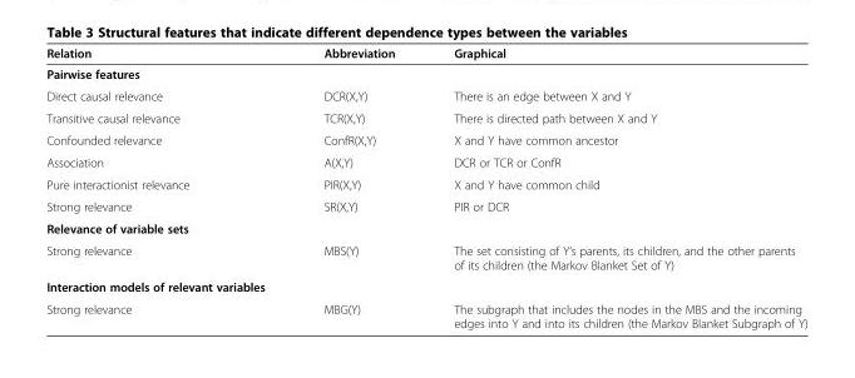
<table><thead><tr><td>Relation</td><td>Abbreviation</td><td>Graphical</td></tr></thead><tbody><tr><td colspan="3">Pairwise features</td></tr><tr><td>Direct causal relevance</td><td>DCR(X,Y)</td><td>There is an edge between X and Y</td></tr><tr><td>Transitive causal relevance</td><td>TCR(X,Y)</td><td>There is directed path between X and Y</td></tr><tr><td>Confounded relevance</td><td>ConfR(X,Y)</td><td>X and Y have common ancestor</td></tr><tr><td>Association</td><td>A(X,Y)</td><td>DCR or TCR or ConfR</td></tr><tr><td>Pure interactionist relevance</td><td>PIR(X,Y)</td><td>X and Y have common child</td></tr><tr><td>Strong relevance</td><td>SR(X,Y)</td><td>PIR or DCR</td></tr><tr><td colspan="3">Relevance of variable sets</td></tr><tr><td>Strong relevance</td><td>MBS(Y)</td><td>The set consisting of Y’s parents, its children, and the other parents of its children (the Markov Blanket Set of Y)</td></tr><tr><td colspan="3">Interaction models of relevant variables</td></tr><tr><td>Strong relevance</td><td>MBG(Y)</td><td>The subgraph that includes the nodes in the MBS and the incoming edges into Y and into its children (the Markov Blanket Subgraph of Y)</td></tr></tbody></table>